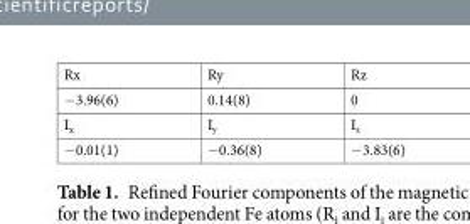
<table><tbody><tr><td>Rx</td><td>Ry</td><td>Rz</td></tr><tr><td>−3.96(6)</td><td>0.14(8)</td><td>0</td></tr><tr><td>I<sub>x</sub></td><td>I<sub>y</sub></td><td>I<sub>z</sub></td></tr><tr><td>−0.01(1)</td><td>−0.36(8)</td><td>−3.83(6)</td></tr></tbody></table>